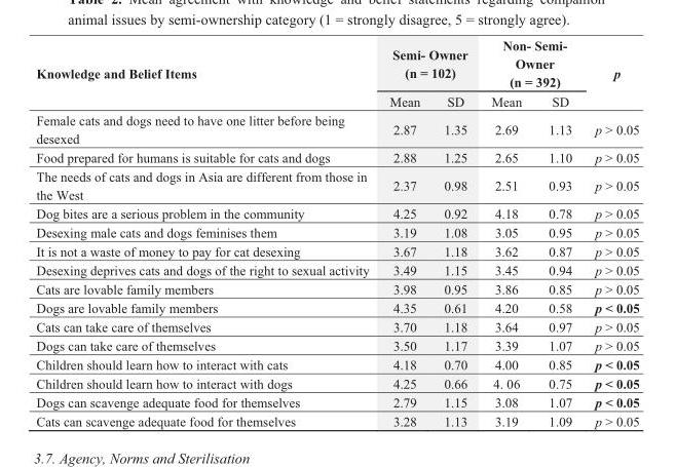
<table><thead><tr><td rowspan="2">Knowledge and Belief Items</td><td colspan="2">Semi- Owner (n = 102)</td><td colspan="2">Non- Semi- Owner (n = 392)</td><td rowspan="2">p</td></tr><tr><td>Mean</td><td>SD</td><td>Mean</td><td>SD</td></tr></thead><tbody><tr><td>Female cats and dogs need to have one litter before being desexed</td><td>2.87</td><td>1.35</td><td>2.69</td><td>1.13</td><td>p &gt; 0.05</td></tr><tr><td>Food prepared for humans is suitable for cats and dogs</td><td>2.88</td><td>1.25</td><td>2.65</td><td>1.10</td><td>p &gt; 0.05</td></tr><tr><td>The needs of cats and dogs in Asia are different from those in the West</td><td>2.37</td><td>0.98</td><td>2.51</td><td>0.93</td><td>p &gt; 0.05</td></tr><tr><td>Dog bites are a serious problem in the community</td><td>4.25</td><td>0.92</td><td>4.18</td><td>0.78</td><td>p &gt; 0.05</td></tr><tr><td>Desexing male cats and dogs feminises them</td><td>3.19</td><td>1.08</td><td>3.05</td><td>0.95</td><td>p &gt; 0.05</td></tr><tr><td>It is not a waste of money to pay for cat desexing</td><td>3.67</td><td>1.18</td><td>3.62</td><td>0.87</td><td>p &gt; 0.05</td></tr><tr><td>Desexing deprives cats and dogs of the right to sexual activity</td><td>3.49</td><td>1.15</td><td>3.45</td><td>0.94</td><td>p &gt; 0.05</td></tr><tr><td>Cats are lovable family members</td><td>3.98</td><td>0.95</td><td>3.86</td><td>0.85</td><td>p &gt; 0.05</td></tr><tr><td>Dogs are lovable family members</td><td>4.35</td><td>0.61</td><td>4.20</td><td>0.58</td><td>p &lt; 0.05</td></tr><tr><td>Cats can take care of themselves</td><td>3.70</td><td>1.18</td><td>3.64</td><td>0.97</td><td>p &gt; 0.05</td></tr><tr><td>Dogs can take care of themselves</td><td>3.50</td><td>1.17</td><td>3.39</td><td>1.07</td><td>p &gt; 0.05</td></tr><tr><td>Children should learn how to interact with cats</td><td>4.18</td><td>0.70</td><td>4.00</td><td>0.85</td><td>p &lt; 0.05</td></tr><tr><td>Children should learn how to interact with dogs</td><td>4.25</td><td>0.66</td><td>4. 06</td><td>0.75</td><td>p &lt; 0.05</td></tr><tr><td>Dogs can scavenge adequate food for themselves</td><td>2.79</td><td>1.15</td><td>3.08</td><td>1.07</td><td>p &lt; 0.05</td></tr><tr><td>Cats can scavenge adequate food for themselves</td><td>3.28</td><td>1.13</td><td>3.19</td><td>1.09</td><td>p &gt; 0.05</td></tr></tbody></table>